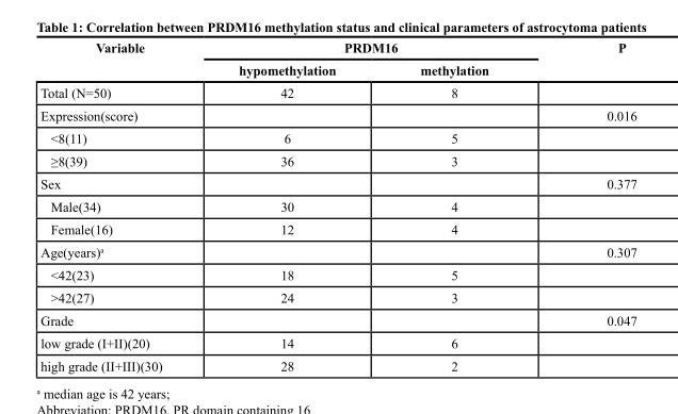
<table><thead><tr><td rowspan="2">Variable</td><td colspan="2">PRDM16</td><td rowspan="2">P</td></tr><tr><td>hypomethylation</td><td>methylation</td></tr></thead><tbody><tr><td>Total (N=50)</td><td>42</td><td>8</td><td></td></tr><tr><td>Expression(score)</td><td></td><td></td><td>0.016</td></tr><tr><td>&lt;8(11)</td><td>6</td><td>5</td><td></td></tr><tr><td>≥8(39)</td><td>36</td><td>3</td><td></td></tr><tr><td>Sex</td><td></td><td></td><td>0.377</td></tr><tr><td>Male(34)</td><td>30</td><td>4</td><td></td></tr><tr><td>Female(16)</td><td>12</td><td>4</td><td></td></tr><tr><td>Age(years)<sup>a</sup></td><td></td><td></td><td>0.307</td></tr><tr><td>&lt;42(23)</td><td>18</td><td>5</td><td></td></tr><tr><td>&gt;42(27)</td><td>24</td><td>3</td><td></td></tr><tr><td>Grade</td><td></td><td></td><td>0.047</td></tr><tr><td>low grade (I+II)(20)</td><td>14</td><td>6</td><td></td></tr><tr><td>high grade (II+III)(30)</td><td>28</td><td>2</td><td></td></tr></tbody></table>